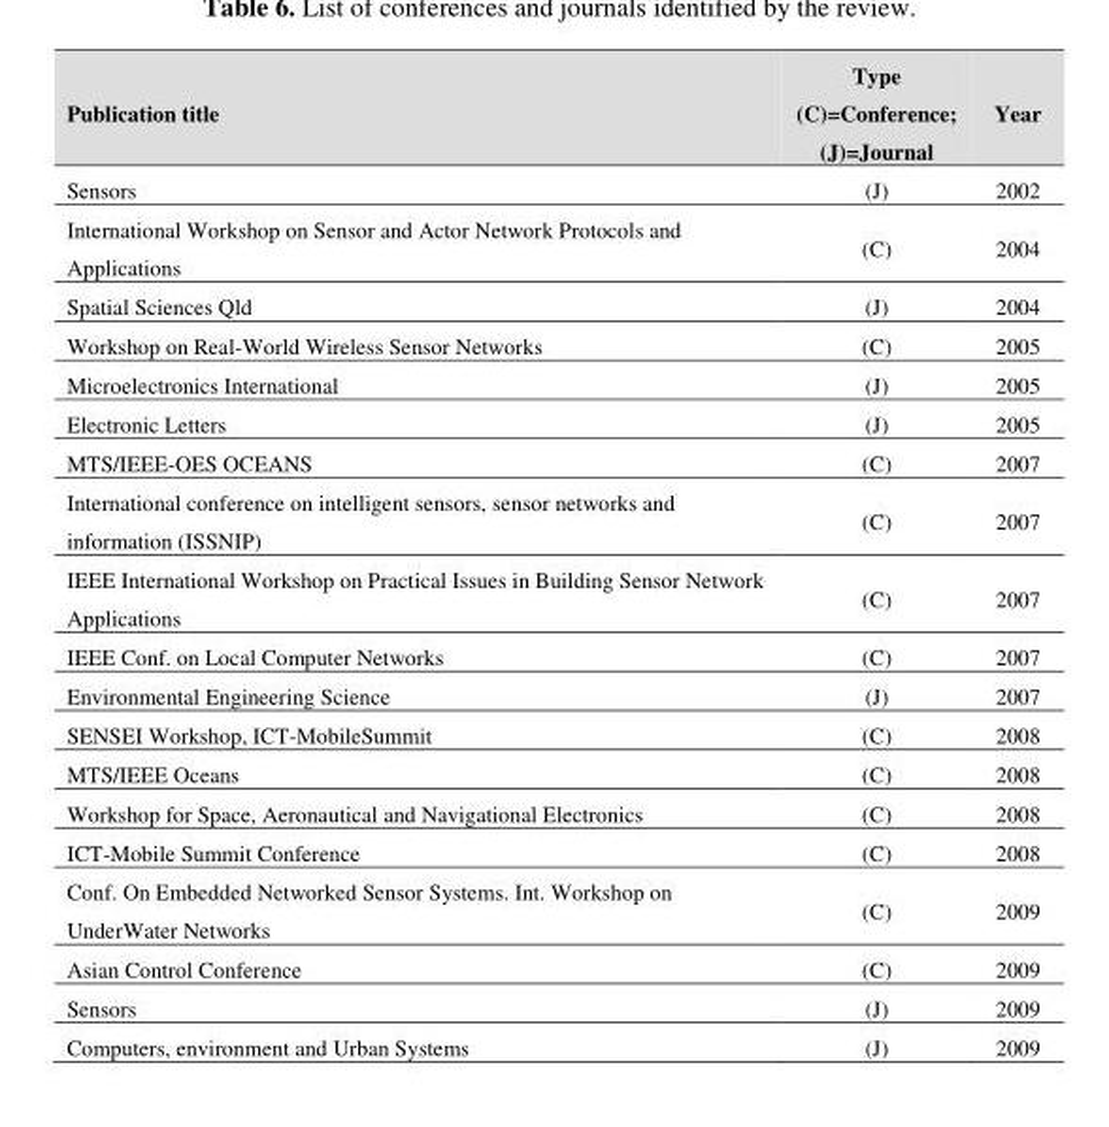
<table><thead><tr><td>Publication title</td><td>Type (C)=Conference; (J)=Journal</td><td>Year</td></tr></thead><tbody><tr><td>Sensors</td><td>(J)</td><td>2002</td></tr><tr><td>International Workshop on Sensor and Actor Network Protocols and Applications</td><td>(C)</td><td>2004</td></tr><tr><td>Spatial Sciences Qld</td><td>(J)</td><td>2004</td></tr><tr><td>Workshop on Real-World Wireless Sensor Networks</td><td>(C)</td><td>2005</td></tr><tr><td>Microelectronics International</td><td>(J)</td><td>2005</td></tr><tr><td>Electronic Letters</td><td>(J)</td><td>2005</td></tr><tr><td>MTS/IEEE-OES OCEANS</td><td>(C)</td><td>2007</td></tr><tr><td>International conference on intelligent sensors, sensor networks and information (ISSNIP)</td><td>(C)</td><td>2007</td></tr><tr><td>IEEE International Workshop on Practical Issues in Building Sensor Network Applications</td><td>(C)</td><td>2007</td></tr><tr><td>IEEE Conf. on Local Computer Networks</td><td>(C)</td><td>2007</td></tr><tr><td>Environmental Engineering Science</td><td>(J)</td><td>2007</td></tr><tr><td>SENSEI Workshop, ICT-MobileSummit</td><td>(C)</td><td>2008</td></tr><tr><td>MTS/IEEE Oceans</td><td>(C)</td><td>2008</td></tr><tr><td>Workshop for Space, Aeronautical and Navigational Electronics</td><td>(C)</td><td>2008</td></tr><tr><td>ICT-Mobile Summit Conference</td><td>(C)</td><td>2008</td></tr><tr><td>Conf. On Embedded Networked Sensor Systems. Int. Workshop on UnderWater Networks</td><td>(C)</td><td>2009</td></tr><tr><td>Asian Control Conference</td><td>(C)</td><td>2009</td></tr><tr><td>Sensors</td><td>(J)</td><td>2009</td></tr><tr><td>Computers, environment and Urban Systems</td><td>(J)</td><td>2009</td></tr></tbody></table>